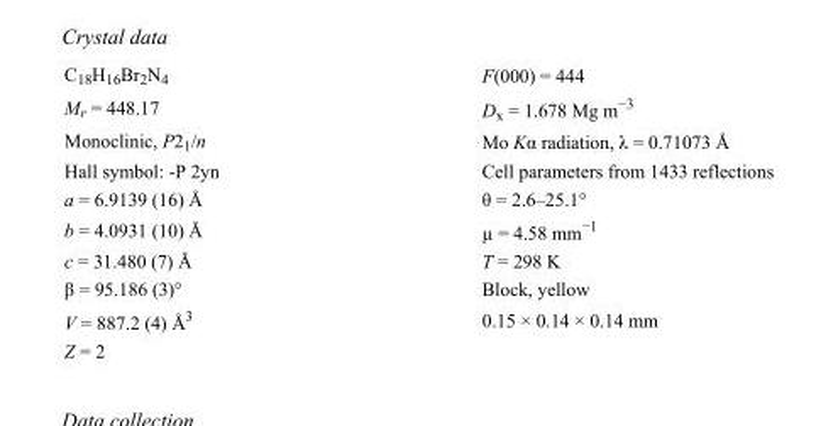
<table><tbody><tr><td>C<sub>18</sub>H<sub>16</sub>Br<sub>2</sub>N<sub>4</sub></td><td>F(000) = 444</td></tr><tr><td>M<sub>r</sub> = 448.17</td><td>D<sub>x</sub> = 1.678 Mg m<sup>−3</sup></td></tr><tr><td>Monoclinic, P2<sub>1</sub>/n</td><td>Mo Kα radiation, λ = 0.71073 Å</td></tr><tr><td>Hall symbol: -P 2yn</td><td>Cell parameters from 1433 reflections</td></tr><tr><td>a = 6.9139 (16) Å</td><td>θ = 2.6–25.1°</td></tr><tr><td>b = 4.0931 (10) Å</td><td>µ = 4.58 mm<sup>−1</sup></td></tr><tr><td>c = 31.480 (7) Å</td><td>T = 298 K</td></tr><tr><td>β = 95.186 (3)°</td><td>Block, yellow</td></tr><tr><td>V = 887.2 (4) Å<sup>3</sup></td><td>0.15 × 0.14 × 0.14 mm</td></tr><tr><td>Z = 2</td><td></td></tr></tbody></table>